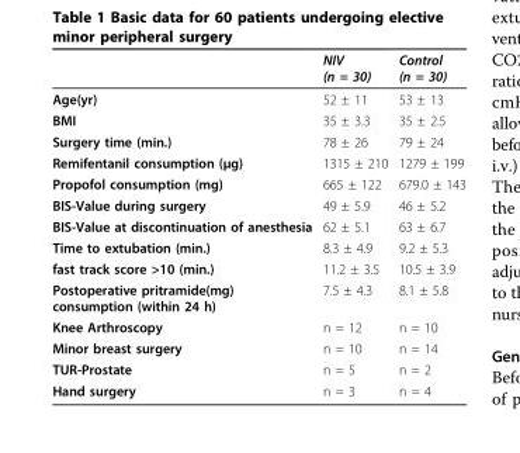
<table><thead><tr><td></td><td>NIV (n = 30)</td><td>Control (n = 30)</td></tr></thead><tbody><tr><td>Age(yr)</td><td>52 ± 11</td><td>53 ± 13</td></tr><tr><td>BMI</td><td>35 ± 3.3</td><td>35 ± 2.5</td></tr><tr><td>Surgery time (min.)</td><td>78 ± 26</td><td>79 ± 24</td></tr><tr><td>Remifentanil consumption (μg)</td><td>1315 ± 210</td><td>1279 ± 199</td></tr><tr><td>Propofol consumption (mg)</td><td>665 ± 122</td><td>679.0 ± 143</td></tr><tr><td>BIS-Value during surgery</td><td>49 ± 5.9</td><td>46 ± 5.2</td></tr><tr><td>BIS-Value at discontinuation of anesthesia</td><td>62 ± 5.1</td><td>63 ± 6.7</td></tr><tr><td>Time to extubation (min.)</td><td>8.3 ± 4.9</td><td>9.2 ± 5.3</td></tr><tr><td>fast track score &gt;10 (min.)</td><td>11.2 ± 3.5</td><td>10.5 ± 3.9</td></tr><tr><td>Postoperative pritramide(mg) consumption (within 24 h)</td><td>7.5 ± 4.3</td><td>8.1 ± 5.8</td></tr><tr><td>Knee Arthroscopy</td><td>n = 12</td><td>n = 10</td></tr><tr><td>Minor breast surgery</td><td>n = 10</td><td>n = 14</td></tr><tr><td>TUR-Prostate</td><td>n = 5</td><td>n = 2</td></tr><tr><td>Hand surgery</td><td>n = 3</td><td>n = 4</td></tr></tbody></table>